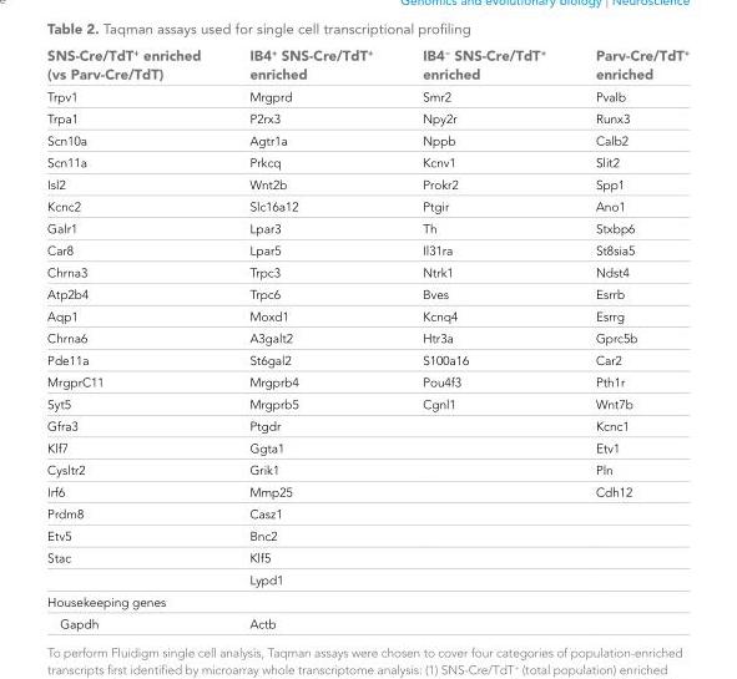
<table><thead><tr><td>SNS-Cre/TdT<sup>+</sup> enriched (vs Parv-Cre/TdT)</td><td>IB4<sup>+</sup> SNS-Cre/TdT<sup>+</sup> enriched</td><td>IB4<sup>−</sup> SNS-Cre/TdT<sup>+</sup> enriched</td><td>Parv-Cre/TdT<sup>+</sup> enriched</td></tr></thead><tbody><tr><td>Trpv1</td><td>Mrgprd</td><td>Smr2</td><td>Pvalb</td></tr><tr><td>Trpa1</td><td>P2rx3</td><td>Npy2r</td><td>Runx3</td></tr><tr><td>Scn10a</td><td>Agtr1a</td><td>Nppb</td><td>Calb2</td></tr><tr><td>Scn11a</td><td>Prkcq</td><td>Kcnv1</td><td>Slit2</td></tr><tr><td>Isl2</td><td>Wnt2b</td><td>Prokr2</td><td>Spp1</td></tr><tr><td>Kcnc2</td><td>Slc16a12</td><td>Ptgir</td><td>Ano1</td></tr><tr><td>Galr1</td><td>Lpar3</td><td>Th</td><td>Stxbp6</td></tr><tr><td>Car8</td><td>Lpar5</td><td>Il31ra</td><td>St8sia5</td></tr><tr><td>Chrna3</td><td>Trpc3</td><td>Ntrk1</td><td>Ndst4</td></tr><tr><td>Atp2b4</td><td>Trpc6</td><td>Bves</td><td>Esrrb</td></tr><tr><td>Aqp1</td><td>Moxd1</td><td>Kcnq4</td><td>Esrrg</td></tr><tr><td>Chrna6</td><td>A3galt2</td><td>Htr3a</td><td>Gprc5b</td></tr><tr><td>Pde11a</td><td>St6gal2</td><td>S100a16</td><td>Car2</td></tr><tr><td>MrgprC11</td><td>Mrgprb4</td><td>Pou4f3</td><td>Pth1r</td></tr><tr><td>Syt5</td><td>Mrgprb5</td><td>Cgnl1</td><td>Wnt7b</td></tr><tr><td>Gfra3</td><td>Ptgdr</td><td></td><td>Kcnc1</td></tr><tr><td>Klf7</td><td>Ggta1</td><td></td><td>Etv1</td></tr><tr><td>Cysltr2</td><td>Grik1</td><td></td><td>Pln</td></tr><tr><td>Irf6</td><td>Mmp25</td><td></td><td>Cdh12</td></tr><tr><td>Prdm8</td><td>Casz1</td><td></td><td></td></tr><tr><td>Etv5</td><td>Bnc2</td><td></td><td></td></tr><tr><td rowspan="2">Stac</td><td>Klf5</td><td></td><td></td></tr><tr><td>Lypd1</td><td></td><td></td></tr><tr><td colspan="4">Housekeeping genes</td></tr><tr><td>Gapdh</td><td>Actb</td><td></td><td></td></tr></tbody></table>